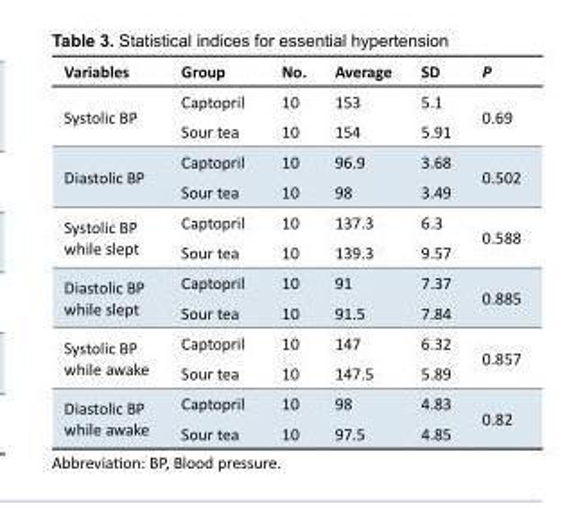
<table><tbody><tr><td>Variables</td><td>Group</td><td>No.</td><td>Average</td><td>SD</td><td>P</td></tr><tr><td rowspan="2">Systolic BP</td><td>Captopril</td><td>10</td><td>153</td><td>5.1</td><td rowspan="2">0.69</td></tr><tr><td>Sour tea</td><td>10</td><td>154</td><td>5.91</td></tr><tr><td rowspan="2">Diastolic BP</td><td>Captopril</td><td>10</td><td>96.9</td><td>3.68</td><td rowspan="2">0.502</td></tr><tr><td>Sour tea</td><td>10</td><td>98</td><td>3.49</td></tr><tr><td rowspan="2">Systolic BP while slept</td><td>Captopril</td><td>10</td><td>137.3</td><td>6.3</td><td rowspan="2">0.588</td></tr><tr><td>Sour tea</td><td>10</td><td>139.3</td><td>9.57</td></tr><tr><td rowspan="2">Diastolic BP while slept</td><td>Captopril</td><td>10</td><td>91</td><td>7.37</td><td rowspan="2">0.885</td></tr><tr><td>Sour tea</td><td>10</td><td>91.5</td><td>7.84</td></tr><tr><td rowspan="2">Systolic BP while awake</td><td>Captopril</td><td>10</td><td>147</td><td>6.32</td><td rowspan="2">0.857</td></tr><tr><td>Sour tea</td><td>10</td><td>147.5</td><td>5.89</td></tr><tr><td rowspan="2">Diastolic BP while awake</td><td>Captopril</td><td>10</td><td>98</td><td>4.83</td><td rowspan="2">0.82</td></tr><tr><td>Sour tea</td><td>10</td><td>97.5</td><td>4.85</td></tr></tbody></table>